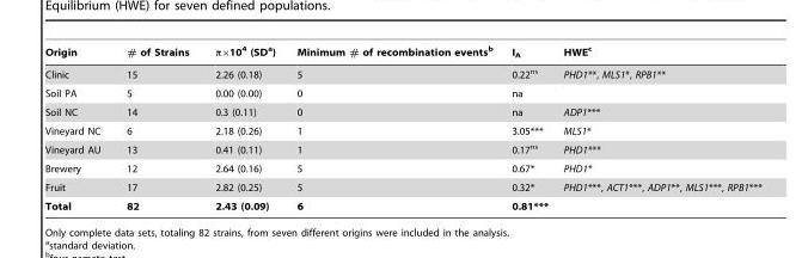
<table><thead><tr><td>Origin</td><td># of Strains</td><td>π×10<sup>4</sup> (SD<sup>a</sup>)</td><td>Minimum # of recombination events<sup>b</sup></td><td>I<sub>A</sub></td><td>HWE<sup>c</sup></td></tr></thead><tbody><tr><td>Clinic</td><td>15</td><td>2.26 (0.18)</td><td>5</td><td>0.22<sup>ns</sup></td><td>PHD1**, MLS1*, RPB1**</td></tr><tr><td>Soil PA</td><td>5</td><td>0.00 (0.00)</td><td>0</td><td>na</td><td></td></tr><tr><td>Soil NC</td><td>14</td><td>0.3 (0.11)</td><td>0</td><td>na</td><td>ADP1***</td></tr><tr><td>Vineyard NC</td><td>6</td><td>2.18 (0.26)</td><td>1</td><td>3.05***</td><td>MLS1*</td></tr><tr><td>Vineyard AU</td><td>13</td><td>0.41 (0.11)</td><td>1</td><td>0.17<sup>ns</sup></td><td>PHD1***</td></tr><tr><td>Brewery</td><td>12</td><td>2.64 (0.16)</td><td>5</td><td>0.67*</td><td>PHD1*</td></tr><tr><td>Fruit</td><td>17</td><td>2.82 (0.25)</td><td>5</td><td>0.32*</td><td>PHD1***, ACT1***, ADP1**, MLS1***, RPB1***</td></tr><tr><td>Total</td><td>82</td><td>2.43 (0.09)</td><td>6</td><td>0.81***</td><td></td></tr></tbody></table>